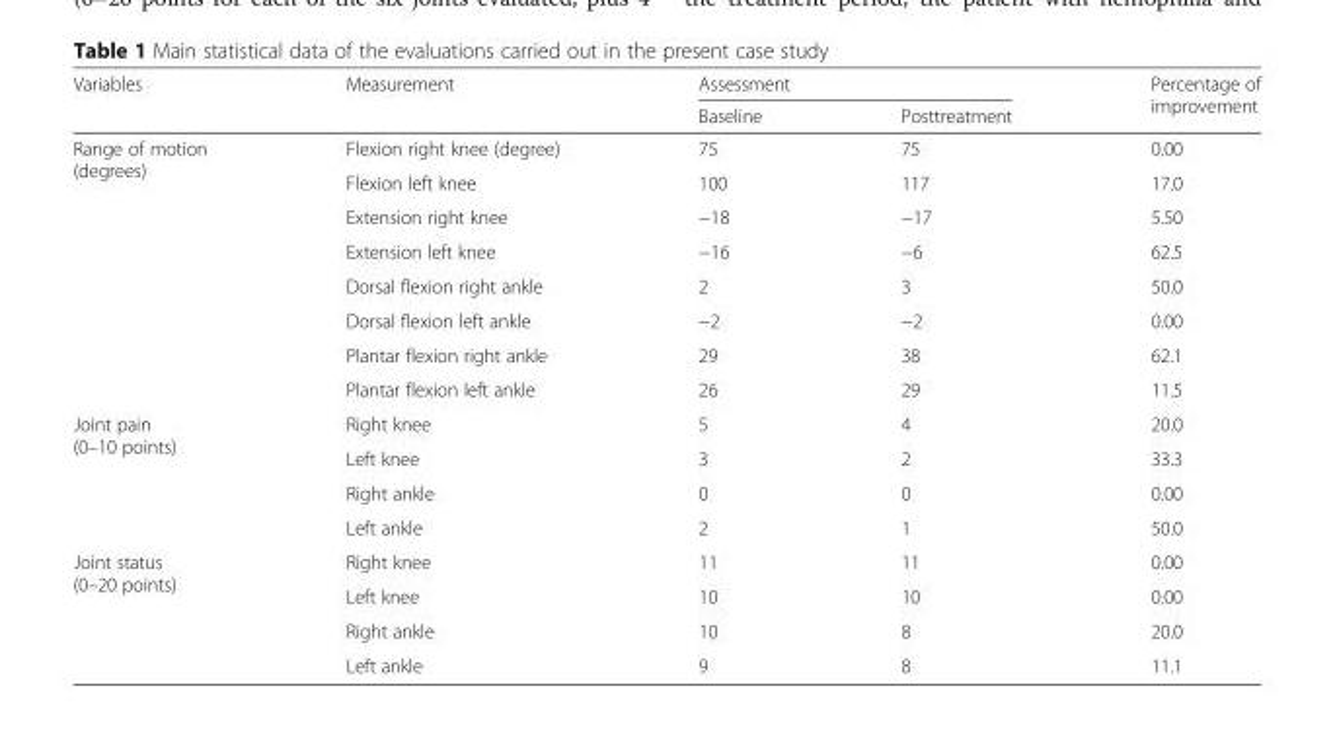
<table><thead><tr><td rowspan="2">Variables</td><td rowspan="2">Measurement</td><td colspan="2">Assessment</td><td rowspan="2">Percentage of improvement</td></tr><tr><td>Baseline</td><td>Posttreatment</td></tr></thead><tbody><tr><td rowspan="8">Range of motion (degrees)</td><td>Flexion right knee (degree)</td><td>75</td><td>75</td><td>0.00</td></tr><tr><td>Flexion left knee</td><td>100</td><td>117</td><td>17.0</td></tr><tr><td>Extension right knee</td><td>−18</td><td>−17</td><td>5.50</td></tr><tr><td>Extension left knee</td><td>−16</td><td>−6</td><td>62.5</td></tr><tr><td>Dorsal flexion right ankle</td><td>2</td><td>3</td><td>50.0</td></tr><tr><td>Dorsal flexion left ankle</td><td>−2</td><td>−2</td><td>0.00</td></tr><tr><td>Plantar flexion right ankle</td><td>29</td><td>38</td><td>62.1</td></tr><tr><td>Plantar flexion left ankle</td><td>26</td><td>29</td><td>11.5</td></tr><tr><td rowspan="4">Joint pain (0–10 points)</td><td>Right knee</td><td>5</td><td>4</td><td>20.0</td></tr><tr><td>Left knee</td><td>3</td><td>2</td><td>33.3</td></tr><tr><td>Right ankle</td><td>0</td><td>0</td><td>0.00</td></tr><tr><td>Left ankle</td><td>2</td><td>1</td><td>50.0</td></tr><tr><td rowspan="4">Joint status (0–20 points)</td><td>Right knee</td><td>11</td><td>11</td><td>0.00</td></tr><tr><td>Left knee</td><td>10</td><td>10</td><td>0.00</td></tr><tr><td>Right ankle</td><td>10</td><td>8</td><td>20.0</td></tr><tr><td>Left ankle</td><td>9</td><td>8</td><td>11.1</td></tr></tbody></table>